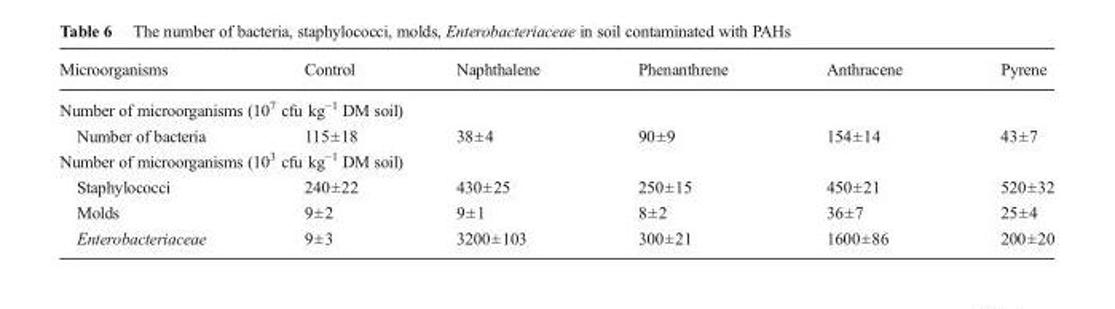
<table><thead><tr><td>Microorganisms</td><td>Control</td><td>Naphthalene</td><td>Phenanthrene</td><td>Anthracene</td><td>Pyrene</td></tr></thead><tbody><tr><td colspan="6">Number of microorganisms (10<sup>7</sup> cfu kg<sup>−1</sup> DM soil)</td></tr><tr><td>Number of bacteria</td><td>115±18</td><td>38±4</td><td>90±9</td><td>154±14</td><td>43±7</td></tr><tr><td colspan="6">Number of microorganisms (10<sup>3</sup> cfu kg<sup>−1</sup> DM soil)</td></tr><tr><td>Staphylococci</td><td>240±22</td><td>430±25</td><td>250±15</td><td>450±21</td><td>520±32</td></tr><tr><td>Molds</td><td>9±2</td><td>9±1</td><td>8±2</td><td>36±7</td><td>25±4</td></tr><tr><td>Enterobacteriaceae</td><td>9±3</td><td>3200±103</td><td>300±21</td><td>1600±86</td><td>200±20</td></tr></tbody></table>